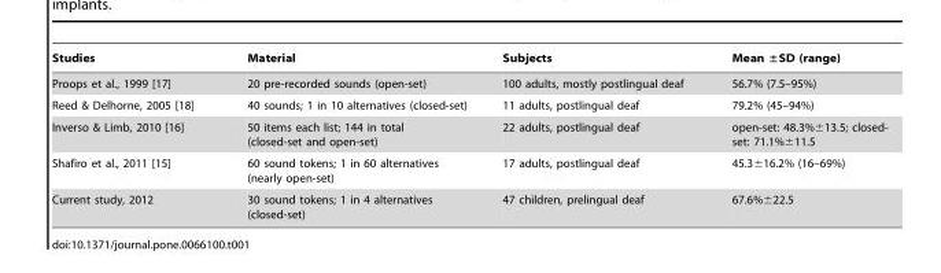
<table><thead><tr><td>Studies</td><td>Material</td><td>Subjects</td><td>Mean ±SD (range)</td></tr></thead><tbody><tr><td>Proops et al., 1999 [17]</td><td>20 pre-recorded sounds (open-set)</td><td>100 adults, mostly postlingual deaf</td><td>56.7% (7.5–95%)</td></tr><tr><td>Reed &amp; Delhorne, 2005 [18]</td><td>40 sounds; 1 in 10 alternatives (closed-set)</td><td>11 adults, postlingual deaf</td><td>79.2% (45–94%)</td></tr><tr><td>Inverso &amp; Limb, 2010 [16]</td><td>50 items each list; 144 in total (closed-set and open-set)</td><td>22 adults, postlingual deaf</td><td>open-set: 48.3%±13.5; closed- set: 71.1%±11.5</td></tr><tr><td>Shafiro et al., 2011 [15]</td><td>60 sound tokens; 1 in 60 alternatives (nearly open-set)</td><td>17 adults, postlingual deaf</td><td>45.3±16.2% (16–69%)</td></tr><tr><td>Current study, 2012</td><td>30 sound tokens; 1 in 4 alternatives (closed-set)</td><td>47 children, prelingual deaf</td><td>67.6%±22.5</td></tr></tbody></table>